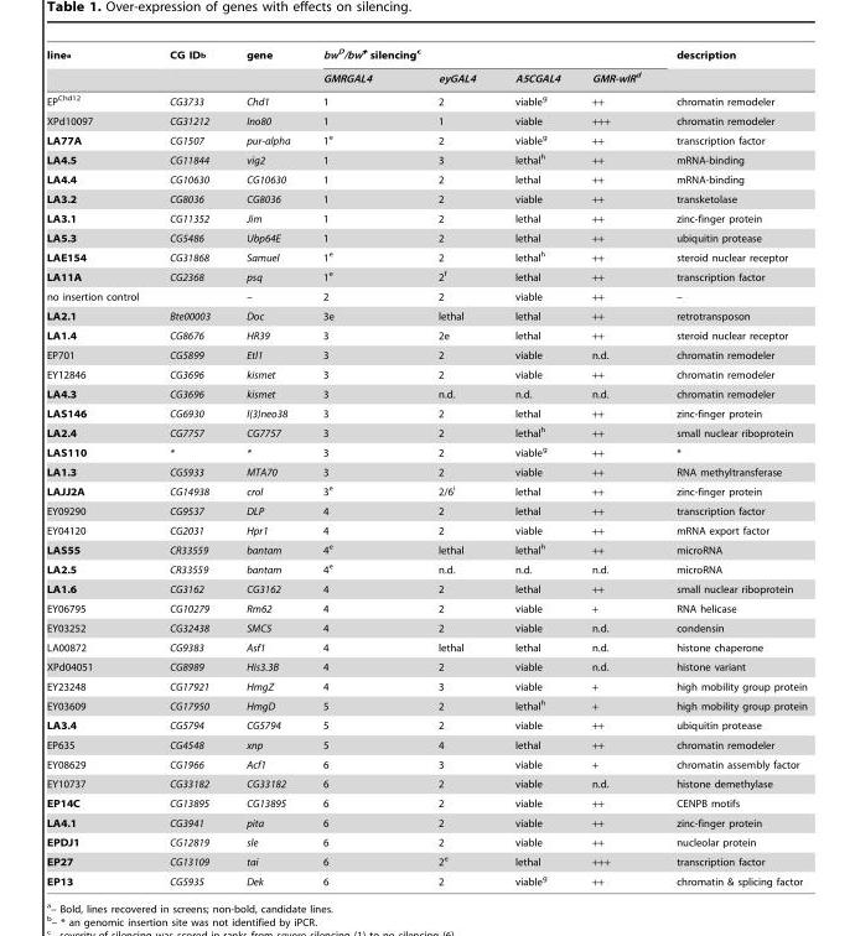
<table><thead><tr><td rowspan="2">line<sup>a</sup></td><td rowspan="2">CG ID<sup>b</sup></td><td rowspan="2">gene</td><td colspan="4">bw<sup>D</sup>/bw<sup>+</sup> silencing<sup>c</sup></td><td rowspan="2">description</td></tr><tr><td>GMRGAL4</td><td>eyGAL4</td><td>A5CGAL4</td><td>GMR-wIRd</td></tr></thead><tbody><tr><td>EP<sup>Chd12</sup></td><td>CG3733</td><td>Chd1</td><td>1</td><td>2</td><td>viable<sup>g</sup></td><td>++</td><td>chromatin remodeler</td></tr><tr><td>XPd10097</td><td>CG31212</td><td>Ino80</td><td>1</td><td>1</td><td>viable</td><td>+++</td><td>chromatin remodeler</td></tr><tr><td>LA77A</td><td>CG1507</td><td>pur-alpha</td><td>1<sup>e</sup></td><td>2</td><td>viable<sup>g</sup></td><td>++</td><td>transcription factor</td></tr><tr><td>LA4.5</td><td>CG11844</td><td>vig2</td><td>1</td><td>3</td><td>lethal<sup>h</sup></td><td>++</td><td>mRNA-binding</td></tr><tr><td>LA4.4</td><td>CG10630</td><td>CG10630</td><td>1</td><td>2</td><td>lethal</td><td>++</td><td>mRNA-binding</td></tr><tr><td>LA3.2</td><td>CG8036</td><td>CG8036</td><td>1</td><td>2</td><td>viable</td><td>++</td><td>transketolase</td></tr><tr><td>LA3.1</td><td>CG11352</td><td>Jim</td><td>1</td><td>2</td><td>lethal</td><td>++</td><td>zinc-finger protein</td></tr><tr><td>LA5.3</td><td>CG5486</td><td>Ubp64E</td><td>1</td><td>2</td><td>lethal</td><td>++</td><td>ubiquitin protease</td></tr><tr><td>LAE154</td><td>CG31868</td><td>Samuel</td><td>1<sup>e</sup></td><td>2</td><td>lethal<sup>h</sup></td><td>++</td><td>steroid nuclear receptor</td></tr><tr><td>LA11A</td><td>CG2368</td><td>psq</td><td>1<sup>e</sup></td><td>2<sup>f</sup></td><td>lethal</td><td>++</td><td>transcription factor</td></tr><tr><td>no insertion control</td><td></td><td>–</td><td>2</td><td>2</td><td>viable</td><td>++</td><td>–</td></tr><tr><td>LA2.1</td><td>Bte00003</td><td>Doc</td><td>3e</td><td>lethal</td><td>lethal</td><td>++</td><td>retrotransposon</td></tr><tr><td>LA1.4</td><td>CG8676</td><td>HR39</td><td>3</td><td>2e</td><td>lethal</td><td>++</td><td>steroid nuclear receptor</td></tr><tr><td>EP701</td><td>CG5899</td><td>Etl1</td><td>3</td><td>2</td><td>viable</td><td>n.d.</td><td>chromatin remodeler</td></tr><tr><td>EY12846</td><td>CG3696</td><td>kismet</td><td>3</td><td>2</td><td>viable</td><td>++</td><td>chromatin remodeler</td></tr><tr><td>LA4.3</td><td>CG3696</td><td>kismet</td><td>3</td><td>n.d.</td><td>n.d.</td><td>n.d.</td><td>chromatin remodeler</td></tr><tr><td>LAS146</td><td>CG6930</td><td>l(3)neo38</td><td>3</td><td>2</td><td>lethal</td><td>++</td><td>zinc-finger protein</td></tr><tr><td>LA2.4</td><td>CG7757</td><td>CG7757</td><td>3</td><td>2</td><td>lethal<sup>h</sup></td><td>++</td><td>small nuclear riboprotein</td></tr><tr><td>LAS110</td><td>*</td><td>*</td><td>3</td><td>2</td><td>viable<sup>g</sup></td><td>++</td><td>*</td></tr><tr><td>LA1.3</td><td>CG5933</td><td>MTA70</td><td>3</td><td>2</td><td>viable</td><td>++</td><td>RNA methyltransferase</td></tr><tr><td>LAJJ2A</td><td>CG14938</td><td>crol</td><td>3<sup>e</sup></td><td>2/6<sup>i</sup></td><td>lethal</td><td>++</td><td>zinc-finger protein</td></tr><tr><td>EY09290</td><td>CG9537</td><td>DLP</td><td>4</td><td>2</td><td>lethal</td><td>++</td><td>transcription factor</td></tr><tr><td>EY04120</td><td>CG2031</td><td>Hpr1</td><td>4</td><td>2</td><td>viable</td><td>++</td><td>mRNA export factor</td></tr><tr><td>LAS55</td><td>CR33559</td><td>bantam</td><td>4<sup>e</sup></td><td>lethal</td><td>lethal<sup>h</sup></td><td>++</td><td>microRNA</td></tr><tr><td>LA2.5</td><td>CR33559</td><td>bantam</td><td>4<sup>e</sup></td><td>n.d.</td><td>n.d.</td><td>n.d.</td><td>microRNA</td></tr><tr><td>LA1.6</td><td>CG3162</td><td>CG3162</td><td>4</td><td>2</td><td>lethal</td><td>++</td><td>small nuclear riboprotein</td></tr><tr><td>EY06795</td><td>CG10279</td><td>Rm62</td><td>4</td><td>2</td><td>viable</td><td>+</td><td>RNA helicase</td></tr><tr><td>EY03252</td><td>CG32438</td><td>SMC5</td><td>4</td><td>2</td><td>viable</td><td>n.d.</td><td>condensin</td></tr><tr><td>LA00872</td><td>CG9383</td><td>Asf1</td><td>4</td><td>lethal</td><td>lethal</td><td>n.d.</td><td>histone chaperone</td></tr><tr><td>XPd04051</td><td>CG8989</td><td>His3.3B</td><td>4</td><td>2</td><td>viable</td><td>n.d.</td><td>histone variant</td></tr><tr><td>EY23248</td><td>CG17921</td><td>HmgZ</td><td>4</td><td>3</td><td>viable</td><td>+</td><td>high mobility group protein</td></tr><tr><td>EY03609</td><td>CG17950</td><td>HmgD</td><td>5</td><td>2</td><td>lethal<sup>h</sup></td><td>+</td><td>high mobility group protein</td></tr><tr><td>LA3.4</td><td>CG5794</td><td>CG5794</td><td>5</td><td>2</td><td>viable</td><td>++</td><td>ubiquitin protease</td></tr><tr><td>EP635</td><td>CG4548</td><td>xnp</td><td>5</td><td>4</td><td>lethal</td><td>++</td><td>chromatin remodeler</td></tr><tr><td>EY08629</td><td>CG1966</td><td>Acf1</td><td>6</td><td>3</td><td>viable</td><td>+</td><td>chromatin assembly factor</td></tr><tr><td>EY10737</td><td>CG33182</td><td>CG33182</td><td>6</td><td>2</td><td>viable</td><td>n.d.</td><td>histone demethylase</td></tr><tr><td>EP14C</td><td>CG13895</td><td>CG13895</td><td>6</td><td>2</td><td>viable</td><td>++</td><td>CENPB motifs</td></tr><tr><td>LA4.1</td><td>CG3941</td><td>pita</td><td>6</td><td>2</td><td>viable</td><td>++</td><td>zinc-finger protein</td></tr><tr><td>EPDJ1</td><td>CG12819</td><td>sle</td><td>6</td><td>2</td><td>viable</td><td>++</td><td>nucleolar protein</td></tr><tr><td>EP27</td><td>CG13109</td><td>tai</td><td>6</td><td>2<sup>e</sup></td><td>lethal</td><td>+++</td><td>transcription factor</td></tr><tr><td>EP13</td><td>CG5935</td><td>Dek</td><td>6</td><td>2</td><td>viable<sup>g</sup></td><td>++</td><td>chromatin &amp; splicing factor</td></tr></tbody></table>